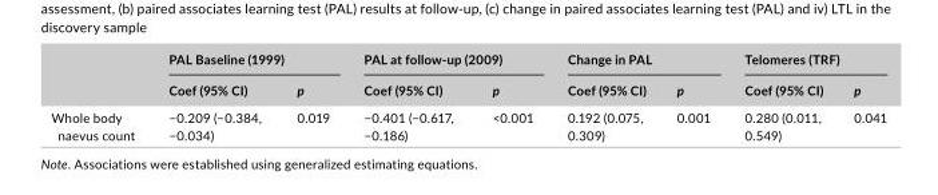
<table><thead><tr><td rowspan="2"></td><td colspan="2">PAL Baseline (1999)</td><td colspan="2">PAL at follow- up (2009)</td><td colspan="2">Change in PAL</td><td colspan="2">Telomeres (TRF)</td></tr><tr><td>Coef (95% CI)</td><td>p</td><td>Coef (95% CI)</td><td>p</td><td>Coef (95% CI)</td><td>p</td><td>Coef (95% CI)</td><td>p</td></tr></thead><tbody><tr><td>Whole body naevus count</td><td>−0.209 (−0.384, −0.034)</td><td>0.019</td><td>−0.401 (−0.617, −0.186)</td><td>&lt;0.001</td><td>0.192 (0.075, 0.309)</td><td>0.001</td><td>0.280 (0.011, 0.549)</td><td>0.041</td></tr></tbody></table>